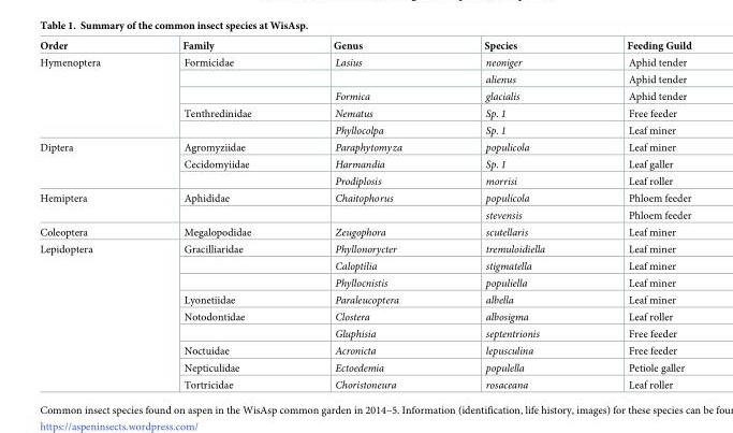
<table><thead><tr><td>Order</td><td>Family</td><td>Genus</td><td>Species</td><td>Feeding Guild</td></tr></thead><tbody><tr><td rowspan="5">Hymenoptera</td><td>Formicidae</td><td>Lasius</td><td>neoniger</td><td>Aphid tender</td></tr><tr><td></td><td></td><td>alienus</td><td>Aphid tender</td></tr><tr><td></td><td>Formica</td><td>glacialis</td><td>Aphid tender</td></tr><tr><td>Tenthredinidae</td><td>Nematus</td><td>Sp. 1</td><td>Free feeder</td></tr><tr><td></td><td>Phyllocolpa</td><td>Sp. 1</td><td>Leaf miner</td></tr><tr><td rowspan="3">Diptera</td><td>Agromyziidae</td><td>Paraphytomyza</td><td>populicola</td><td>Leaf miner</td></tr><tr><td>Cecidomyiidae</td><td>Harmandia</td><td>Sp. 1</td><td>Leaf galler</td></tr><tr><td></td><td>Prodiplosis</td><td>morrisi</td><td>Leaf roller</td></tr><tr><td rowspan="2">Hemiptera</td><td>Aphididae</td><td>Chaitophorus</td><td>populicola</td><td>Phloem feeder</td></tr><tr><td></td><td></td><td>stevensis</td><td>Phloem feeder</td></tr><tr><td>Coleoptera</td><td>Megalopodidae</td><td>Zeugophora</td><td>scutellaris</td><td>Leaf miner</td></tr><tr><td rowspan="9">Lepidoptera</td><td>Gracilliaridae</td><td>Phyllonorycter</td><td>tremuloidiella</td><td>Leaf miner</td></tr><tr><td></td><td>Caloptilia</td><td>stigmatella</td><td>Leaf miner</td></tr><tr><td></td><td>Phyllocnistis</td><td>populiella</td><td>Leaf miner</td></tr><tr><td>Lyonetiidae</td><td>Paraleucoptera</td><td>albella</td><td>Leaf miner</td></tr><tr><td>Notodontidae</td><td>Clostera</td><td>albosigma</td><td>Leaf roller</td></tr><tr><td></td><td>Gluphisia</td><td>septentrionis</td><td>Free feeder</td></tr><tr><td>Noctuidae</td><td>Acronicta</td><td>lepusculina</td><td>Free feeder</td></tr><tr><td>Nepticulidae</td><td>Ectoedemia</td><td>populella</td><td>Petiole galler</td></tr><tr><td>Tortricidae</td><td>Choristoneura</td><td>rosaceana</td><td>Leaf roller</td></tr></tbody></table>